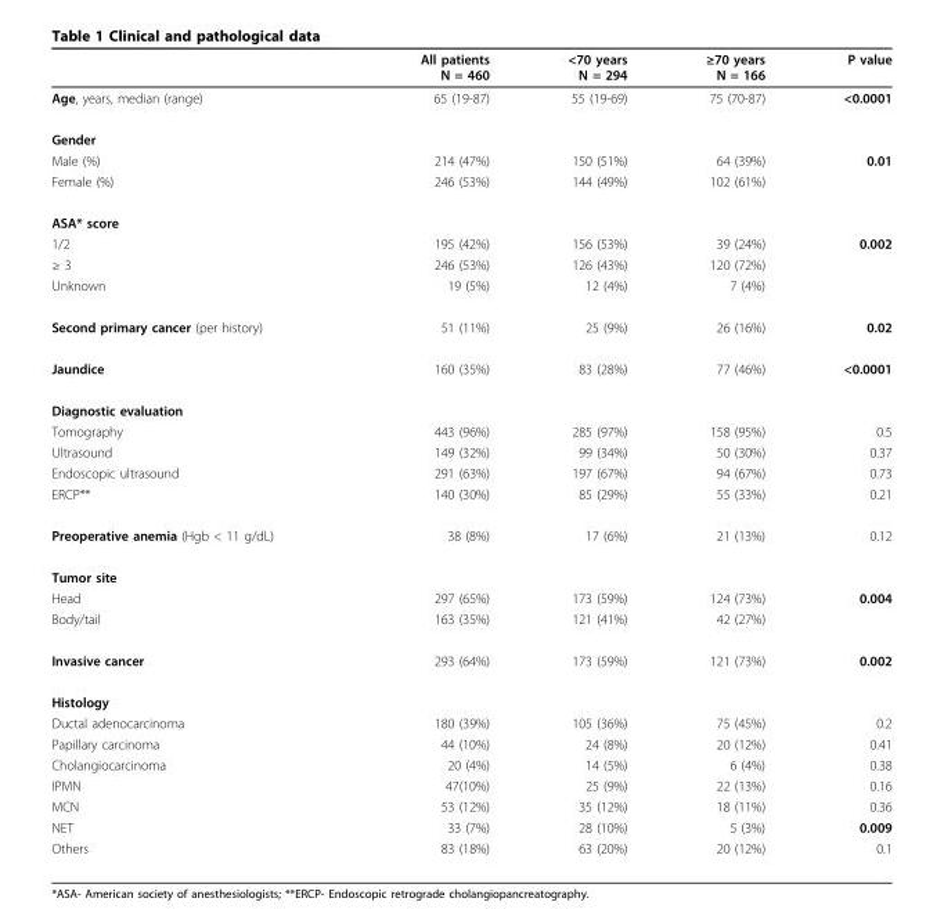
<table><thead><tr><td></td><td>All patients N = 460</td><td>&lt;70 years N = 294</td><td>≥70 years N = 166</td><td>P value</td></tr></thead><tbody><tr><td>Age, years, median (range)</td><td>65 (19-87)</td><td>55 (19-69)</td><td>75 (70-87)</td><td>&lt;0.0001</td></tr><tr><td colspan="5">Gender</td></tr><tr><td>Male (%)</td><td>214 (47%)</td><td>150 (51%)</td><td>64 (39%)</td><td>0.01</td></tr><tr><td>Female (%)</td><td>246 (53%)</td><td>144 (49%)</td><td>102 (61%)</td><td></td></tr><tr><td colspan="5">ASA* score</td></tr><tr><td>1/2</td><td>195 (42%)</td><td>156 (53%)</td><td>39 (24%)</td><td>0.002</td></tr><tr><td>≥ 3</td><td>246 (53%)</td><td>126 (43%)</td><td>120 (72%)</td><td></td></tr><tr><td>Unknown</td><td>19 (5%)</td><td>12 (4%)</td><td>7 (4%)</td><td></td></tr><tr><td>Second primary cancer (per history)</td><td>51 (11%)</td><td>25 (9%)</td><td>26 (16%)</td><td>0.02</td></tr><tr><td>Jaundice</td><td>160 (35%)</td><td>83 (28%)</td><td>77 (46%)</td><td>&lt;0.0001</td></tr><tr><td colspan="5">Diagnostic evaluation</td></tr><tr><td>Tomography</td><td>443 (96%)</td><td>285 (97%)</td><td>158 (95%)</td><td>0.5</td></tr><tr><td>Ultrasound</td><td>149 (32%)</td><td>99 (34%)</td><td>50 (30%)</td><td>0.37</td></tr><tr><td>Endoscopic ultrasound</td><td>291 (63%)</td><td>197 (67%)</td><td>94 (67%)</td><td>0.73</td></tr><tr><td>ERCP**</td><td>140 (30%)</td><td>85 (29%)</td><td>55 (33%)</td><td>0.21</td></tr><tr><td>Preoperative anemia (Hgb &lt; 11 g/dL)</td><td>38 (8%)</td><td>17 (6%)</td><td>21 (13%)</td><td>0.12</td></tr><tr><td colspan="5">Tumor site</td></tr><tr><td>Head</td><td>297 (65%)</td><td>173 (59%)</td><td>124 (73%)</td><td>0.004</td></tr><tr><td>Body/tail</td><td>163 (35%)</td><td>121 (41%)</td><td>42 (27%)</td><td></td></tr><tr><td>Invasive cancer</td><td>293 (64%)</td><td>173 (59%)</td><td>121 (73%)</td><td>0.002</td></tr><tr><td colspan="5">Histology</td></tr><tr><td>Ductal adenocarcinoma</td><td>180 (39%)</td><td>105 (36%)</td><td>75 (45%)</td><td>0.2</td></tr><tr><td>Papillary carcinoma</td><td>44 (10%)</td><td>24 (8%)</td><td>20 (12%)</td><td>0.41</td></tr><tr><td>Cholangiocarcinoma</td><td>20 (4%)</td><td>14 (5%)</td><td>6 (4%)</td><td>0.38</td></tr><tr><td>IPMN</td><td>47(10%)</td><td>25 (9%)</td><td>22 (13%)</td><td>0.16</td></tr><tr><td>MCN</td><td>53 (12%)</td><td>35 (12%)</td><td>18 (11%)</td><td>0.36</td></tr><tr><td>NET</td><td>33 (7%)</td><td>28 (10%)</td><td>5 (3%)</td><td>0.009</td></tr><tr><td>Others</td><td>83 (18%)</td><td>63 (20%)</td><td>20 (12%)</td><td>0.1</td></tr></tbody></table>